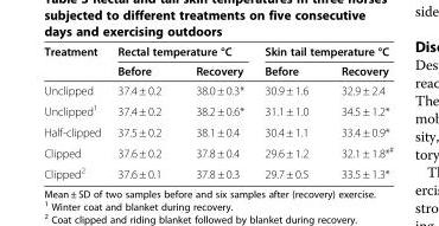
<table><thead><tr><td rowspan="2">Treatment</td><td colspan="2">Rectal temperature °C</td><td colspan="2">Skin tail temperature °C</td></tr><tr><td>Before</td><td>Recovery</td><td>Before</td><td>Recovery</td></tr></thead><tbody><tr><td>Unclipped</td><td>37.4 ± 0.2</td><td>38.0 ± 0.3*</td><td>30.9 ± 1.6</td><td>32.9 ± 2.4</td></tr><tr><td>Unclipped<sup>1</sup></td><td>37.4 ± 0.2</td><td>38.2 ± 0.6*</td><td>31.1 ± 1.0</td><td>34.5 ± 1.2*</td></tr><tr><td>Half-clipped</td><td>37.5 ± 0.2</td><td>38.1 ± 0.4</td><td>30.4 ± 1.1</td><td>33.4 ± 0.9*</td></tr><tr><td>Clipped</td><td>37.6 ± 0.2</td><td>37.8 ± 0.4</td><td>29.6 ± 1.2</td><td>32.1 ± 1.8*<sup>#</sup></td></tr><tr><td>Clipped<sup>2</sup></td><td>37.6 ± 0.1</td><td>37.8 ± 0.3</td><td>29.7 ± 0.5</td><td>33.5 ± 1.3*</td></tr></tbody></table>